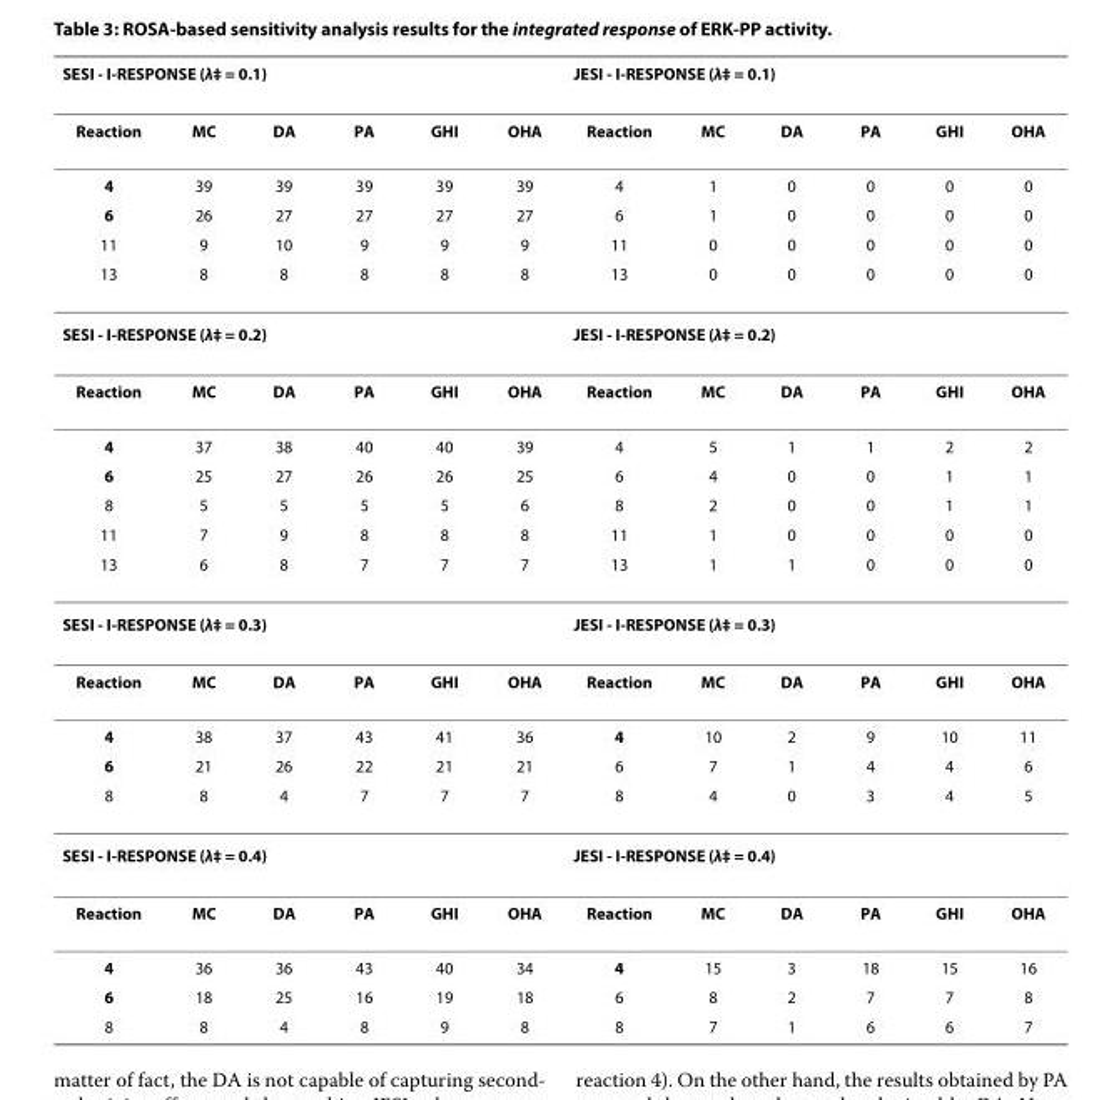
<table><thead><tr><td colspan="6">SESI - I-RESPONSE (λ‡ = 0.1)</td><td colspan="6">JESI - I-RESPONSE (λ‡ = 0.1)</td></tr><tr><td>Reaction</td><td>MC</td><td>DA</td><td>PA</td><td>GHI</td><td>OHA</td><td>Reaction</td><td>MC</td><td>DA</td><td>PA</td><td>GHI</td><td>OHA</td></tr></thead><tbody><tr><td>4</td><td>39</td><td>39</td><td>39</td><td>39</td><td>39</td><td>4</td><td>1</td><td>0</td><td>0</td><td>0</td><td>0</td></tr><tr><td>6</td><td>26</td><td>27</td><td>27</td><td>27</td><td>27</td><td>6</td><td>1</td><td>0</td><td>0</td><td>0</td><td>0</td></tr><tr><td>11</td><td>9</td><td>10</td><td>9</td><td>9</td><td>9</td><td>11</td><td>0</td><td>0</td><td>0</td><td>0</td><td>0</td></tr><tr><td>13</td><td>8</td><td>8</td><td>8</td><td>8</td><td>8</td><td>13</td><td>0</td><td>0</td><td>0</td><td>0</td><td>0</td></tr><tr><td colspan="6">SESI - I-RESPONSE (λ‡ = 0.2)</td><td colspan="6">JESI - I-RESPONSE (λ‡ = 0.2)</td></tr><tr><td>Reaction</td><td>MC</td><td>DA</td><td>PA</td><td>GHI</td><td>OHA</td><td>Reaction</td><td>MC</td><td>DA</td><td>PA</td><td>GHI</td><td>OHA</td></tr><tr><td>4</td><td>37</td><td>38</td><td>40</td><td>40</td><td>39</td><td>4</td><td>5</td><td>1</td><td>1</td><td>2</td><td>2</td></tr><tr><td>6</td><td>25</td><td>27</td><td>26</td><td>26</td><td>25</td><td>6</td><td>4</td><td>0</td><td>0</td><td>1</td><td>1</td></tr><tr><td>8</td><td>5</td><td>5</td><td>5</td><td>5</td><td>6</td><td>8</td><td>2</td><td>0</td><td>0</td><td>1</td><td>1</td></tr><tr><td>11</td><td>7</td><td>9</td><td>8</td><td>8</td><td>8</td><td>11</td><td>1</td><td>0</td><td>0</td><td>0</td><td>0</td></tr><tr><td>13</td><td>6</td><td>8</td><td>7</td><td>7</td><td>7</td><td>13</td><td>1</td><td>1</td><td>0</td><td>0</td><td>0</td></tr><tr><td colspan="6">SESI - I-RESPONSE (λ‡ = 0.3)</td><td colspan="6">JESI - I-RESPONSE (λ‡ = 0.3)</td></tr><tr><td>Reaction</td><td>MC</td><td>DA</td><td>PA</td><td>GHI</td><td>OHA</td><td>Reaction</td><td>MC</td><td>DA</td><td>PA</td><td>GHI</td><td>OHA</td></tr><tr><td>4</td><td>38</td><td>37</td><td>43</td><td>41</td><td>36</td><td>4</td><td>10</td><td>2</td><td>9</td><td>10</td><td>11</td></tr><tr><td>6</td><td>21</td><td>26</td><td>22</td><td>21</td><td>21</td><td>6</td><td>7</td><td>1</td><td>4</td><td>4</td><td>6</td></tr><tr><td>8</td><td>8</td><td>4</td><td>7</td><td>7</td><td>7</td><td>8</td><td>4</td><td>0</td><td>3</td><td>4</td><td>5</td></tr><tr><td colspan="6">SESI - I-RESPONSE (λ‡ = 0.4)</td><td colspan="6">JESI - I-RESPONSE (λ‡ = 0.4)</td></tr><tr><td>Reaction</td><td>MC</td><td>DA</td><td>PA</td><td>GHI</td><td>OHA</td><td>Reaction</td><td>MC</td><td>DA</td><td>PA</td><td>GHI</td><td>OHA</td></tr><tr><td>4</td><td>36</td><td>36</td><td>43</td><td>40</td><td>34</td><td>4</td><td>15</td><td>3</td><td>18</td><td>15</td><td>16</td></tr><tr><td>6</td><td>18</td><td>25</td><td>16</td><td>19</td><td>18</td><td>6</td><td>8</td><td>2</td><td>7</td><td>7</td><td>8</td></tr><tr><td>8</td><td>8</td><td>4</td><td>8</td><td>9</td><td>8</td><td>8</td><td>7</td><td>1</td><td>6</td><td>6</td><td>7</td></tr></tbody></table>